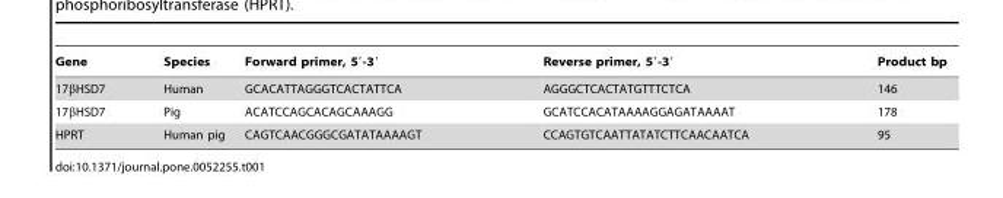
<table><thead><tr><td>Gene</td><td>Species</td><td>Forward primer, 5′-3′</td><td>Reverse primer, 5′-3′</td><td>Product bp</td></tr></thead><tbody><tr><td>17βHSD7</td><td>Human</td><td>GCACATTAGGGTCACTATTCA</td><td>AGGGCTCACTATGTTTCTCA</td><td>146</td></tr><tr><td>17βHSD7</td><td>Pig</td><td>ACATCCAGCACAGCAAAGG</td><td>GCATCCACATAAAAGGAGATAAAAT</td><td>178</td></tr><tr><td>HPRT</td><td>Human pig</td><td>CAGTCAACGGGCGATATAAAAGT</td><td>CCAGTGTCAATTATATCTTCAACAATCA</td><td>95</td></tr></tbody></table>